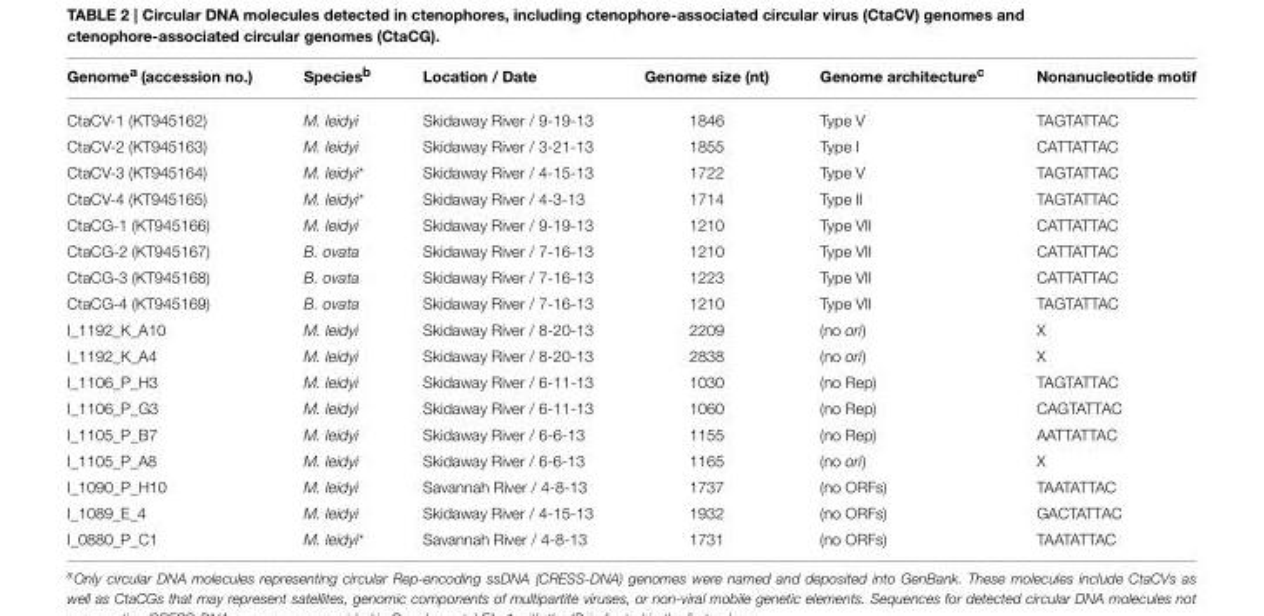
<table><thead><tr><td>Genome<sup>a</sup> (accession no.)</td><td>Species<sup>b</sup></td><td>Location / Date</td><td>Genome size (nt)</td><td>Genome architecture<sup>c</sup></td><td>Nonanucleotide motif</td></tr></thead><tbody><tr><td>CtaCV-1 (KT945162)</td><td>M. leidyi</td><td>Skidaway River / 9-19-13</td><td>1846</td><td>Type V</td><td>TAGTATTAC</td></tr><tr><td>CtaCV-2 (KT945163)</td><td>M. leidyi</td><td>Skidaway River / 3-21-13</td><td>1855</td><td>Type I</td><td>CATTATTAC</td></tr><tr><td>CtaCV-3 (KT945164)</td><td>M. leidyi*</td><td>Skidaway River / 4-15-13</td><td>1722</td><td>Type V</td><td>TAGTATTAC</td></tr><tr><td>CtaCV-4 (KT945165)</td><td>M. leidyi*</td><td>Skidaway River / 4-3-13</td><td>1714</td><td>Type II</td><td>TAGTATTAC</td></tr><tr><td>CtaCG-1 (KT945166)</td><td>M. leidyi</td><td>Skidaway River / 9-19-13</td><td>1210</td><td>Type VII</td><td>CATTATTAC</td></tr><tr><td>CtaCG-2 (KT945167)</td><td>B. ovata</td><td>Skidaway River / 7-16-13</td><td>1210</td><td>Type VII</td><td>CATTATTAC</td></tr><tr><td>CtaCG-3 (KT945168)</td><td>B. ovata</td><td>Skidaway River / 7-16-13</td><td>1223</td><td>Type VII</td><td>CATTATTAC</td></tr><tr><td>CtaCG-4 (KT945169)</td><td>B. ovata</td><td>Skidaway River / 7-16-13</td><td>1210</td><td>Type VII</td><td>TAGTATTAC</td></tr><tr><td>I_1192_K_A10</td><td>M. leidyi</td><td>Skidaway River / 8-20-13</td><td>2209</td><td>(no ori)</td><td>X</td></tr><tr><td>I_1192_K_A4</td><td>M. leidyi</td><td>Skidaway River / 8-20-13</td><td>2838</td><td>(no ori)</td><td>X</td></tr><tr><td>I_1106_P_H3</td><td>M. leidyi</td><td>Skidaway River / 6-11-13</td><td>1030</td><td>(no Rep)</td><td>TAGTATTAC</td></tr><tr><td>I_1106_P_G3</td><td>M. leidyi</td><td>Skidaway River / 6-11-13</td><td>1060</td><td>(no Rep)</td><td>CAGTATTAC</td></tr><tr><td>I_1105_P_B7</td><td>M. leidyi</td><td>Skidaway River / 6-6-13</td><td>1155</td><td>(no Rep)</td><td>AATTATTAC</td></tr><tr><td>I_1105_P_A8</td><td>M. leidyi</td><td>Skidaway River / 6-6-13</td><td>1165</td><td>(no ori)</td><td>X</td></tr><tr><td>I_1090_P_H10</td><td>M. leidyi</td><td>Savannah River / 4-8-13</td><td>1737</td><td>(no ORFs)</td><td>TAATATTAC</td></tr><tr><td>I_1089_E_4</td><td>M. leidyi</td><td>Skidaway River / 4-15-13</td><td>1932</td><td>(no ORFs)</td><td>GACTATTAC</td></tr><tr><td>I_0880_P_C1</td><td>M. leidyi*</td><td>Savannah River / 4-8-13</td><td>1731</td><td>(no ORFs)</td><td>TAATATTAC</td></tr></tbody></table>